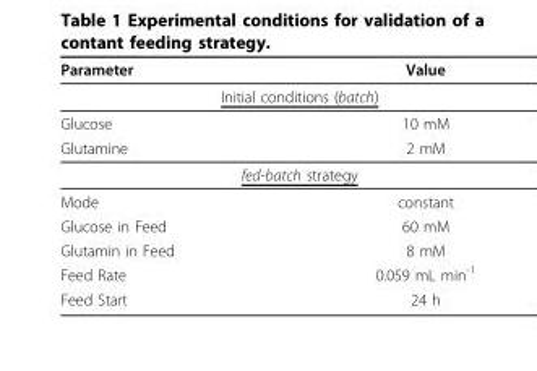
<table><thead><tr><td>Parameter</td><td>Value</td></tr></thead><tbody><tr><td colspan="2">Initial conditions (batch)</td></tr><tr><td>Glucose</td><td>10 mM</td></tr><tr><td>Glutamine</td><td>2 mM</td></tr><tr><td colspan="2">fed-batch strategy</td></tr><tr><td>Mode</td><td>constant</td></tr><tr><td>Glucose in Feed</td><td>60 mM</td></tr><tr><td>Glutamin in Feed</td><td>8 mM</td></tr><tr><td>Feed Rate</td><td>0.059 mL min<sup>-1</sup></td></tr><tr><td>Feed Start</td><td>24 h</td></tr></tbody></table>